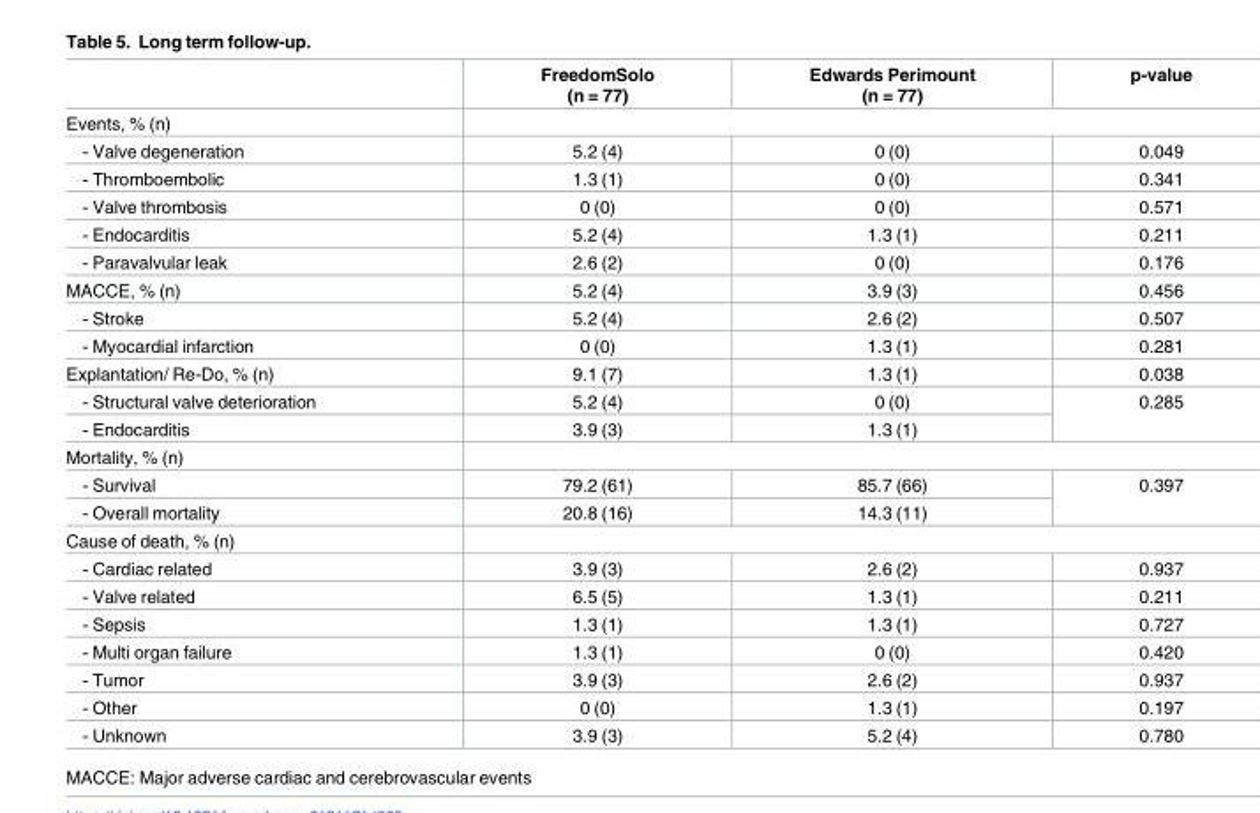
<table><thead><tr><td></td><td>FreedomSolo (n = 77)</td><td>Edwards Perimount (n = 77)</td><td>p-value</td></tr></thead><tbody><tr><td colspan="4">Events, % (n)</td></tr><tr><td>- Valve degeneration</td><td>5.2 (4)</td><td>0 (0)</td><td>0.049</td></tr><tr><td>- Thromboembolic</td><td>1.3 (1)</td><td>0 (0)</td><td>0.341</td></tr><tr><td>- Valve thrombosis</td><td>0 (0)</td><td>0 (0)</td><td>0.571</td></tr><tr><td>- Endocarditis</td><td>5.2 (4)</td><td>1.3 (1)</td><td>0.211</td></tr><tr><td>- Paravalvular leak</td><td>2.6 (2)</td><td>0 (0)</td><td>0.176</td></tr><tr><td>MACCE, % (n)</td><td>5.2 (4)</td><td>3.9 (3)</td><td>0.456</td></tr><tr><td>- Stroke</td><td>5.2 (4)</td><td>2.6 (2)</td><td>0.507</td></tr><tr><td>- Myocardial infarction</td><td>0 (0)</td><td>1.3 (1)</td><td>0.281</td></tr><tr><td>Explantation/ Re-Do, % (n)</td><td>9.1 (7)</td><td>1.3 (1)</td><td>0.038</td></tr><tr><td>- Structural valve deterioration</td><td>5.2 (4)</td><td>0 (0)</td><td rowspan="2">0.285</td></tr><tr><td>- Endocarditis</td><td>3.9 (3)</td><td>1.3 (1)</td></tr><tr><td colspan="4">Mortality, % (n)</td></tr><tr><td>- Survival</td><td>79.2 (61)</td><td>85.7 (66)</td><td rowspan="2">0.397</td></tr><tr><td>- Overall mortality</td><td>20.8 (16)</td><td>14.3 (11)</td></tr><tr><td colspan="4">Cause of death, % (n)</td></tr><tr><td>- Cardiac related</td><td>3.9 (3)</td><td>2.6 (2)</td><td>0.937</td></tr><tr><td>- Valve related</td><td>6.5 (5)</td><td>1.3 (1)</td><td>0.211</td></tr><tr><td>- Sepsis</td><td>1.3 (1)</td><td>1.3 (1)</td><td>0.727</td></tr><tr><td>- Multi organ failure</td><td>1.3 (1)</td><td>0 (0)</td><td>0.420</td></tr><tr><td>- Tumor</td><td>3.9 (3)</td><td>2.6 (2)</td><td>0.937</td></tr><tr><td>- Other</td><td>0 (0)</td><td>1.3 (1)</td><td>0.197</td></tr><tr><td>- Unknown</td><td>3.9 (3)</td><td>5.2 (4)</td><td>0.780</td></tr></tbody></table>